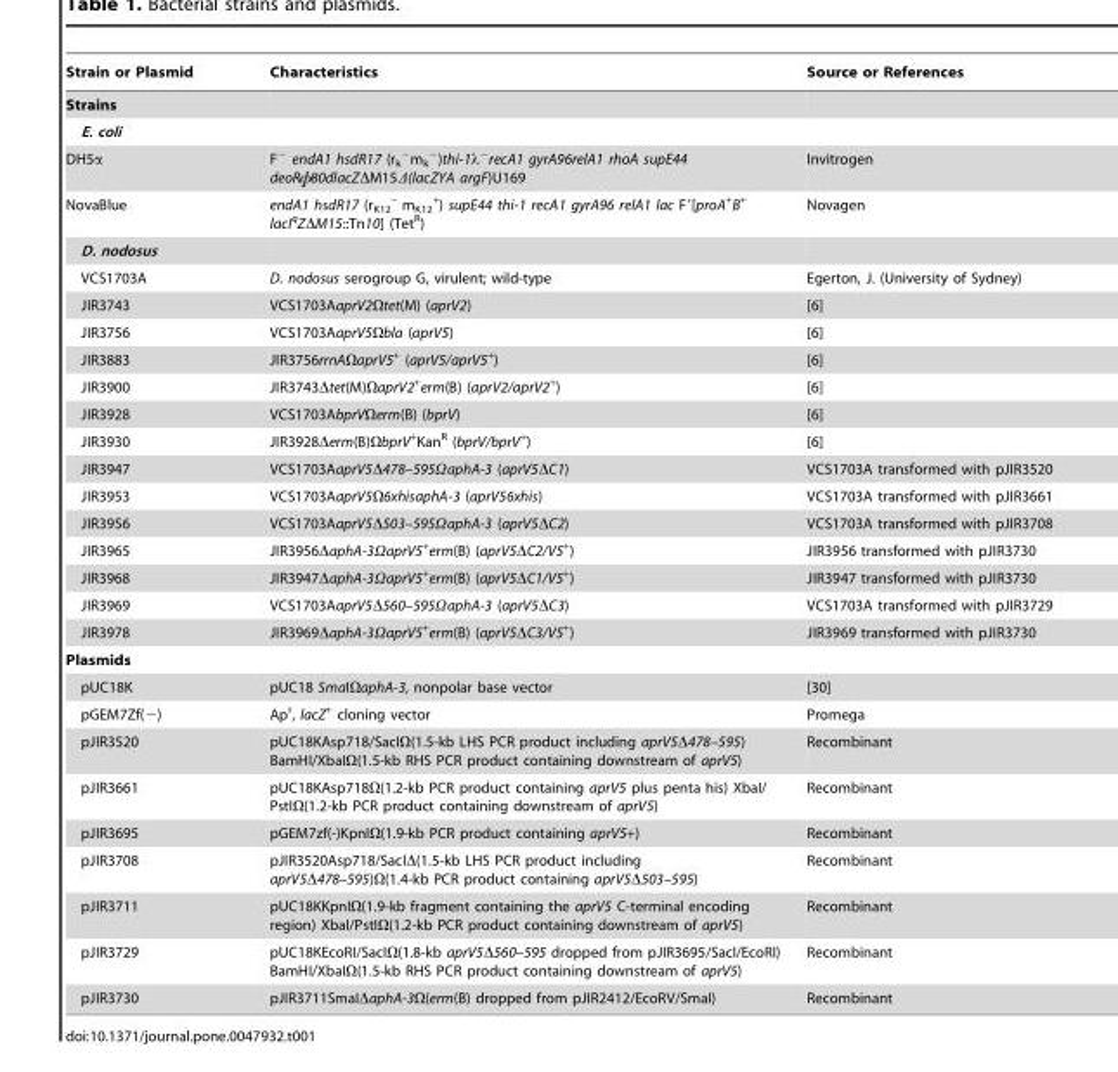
<table><thead><tr><td>Strain or Plasmid</td><td>Characteristics</td><td>Source or References</td></tr></thead><tbody><tr><td colspan="3">Strains</td></tr><tr><td colspan="3">E. coli</td></tr><tr><td>DH5α</td><td>F2 endA1 hsdR17 (rk 2mk 2)thi-1l2recA1 gyrA96relA1 rhoA supE44 deoR 80dlacZDM15D(lacZYA argF)U169</td><td>Invitrogen</td></tr><tr><td>NovaBlue</td><td>endA1 hsdR17 (r<sub>K12</sub> <sup>–</sup> m<sub>K12</sub> <sup>+</sup>) supE44 thi-1 recA1 gyrA96 relA1 lac F′[proA<sup>+</sup>B<sup>+</sup> lacI<sup>q</sup>ZΔM15::Tn10] (Tet<sup>R</sup>)</td><td>Novagen</td></tr><tr><td colspan="3">D. nodosus</td></tr><tr><td>VCS1703A</td><td>D. nodosus serogroup G, virulent; wild-type</td><td>Egerton, J. (University of Sydney)</td></tr><tr><td>JIR3743</td><td>VCS1703AaprV2Ωtet(M) (aprV2)</td><td>[6]</td></tr><tr><td>JIR3756</td><td>VCS1703AaprV5Ωbla (aprV5)</td><td>[6]</td></tr><tr><td>JIR3883</td><td>JIR3756rrnAΩaprV5<sup>+</sup> (aprV5/aprV5<sup>+</sup>)</td><td>[6]</td></tr><tr><td>JIR3900</td><td>JIR3743Δtet(M)ΩaprV2<sup>+</sup>erm(B) (aprV2/aprV2<sup>+</sup>)</td><td>[6]</td></tr><tr><td>JIR3928</td><td>VCS1703AbprVΩerm(B) (bprV)</td><td>[6]</td></tr><tr><td>JIR3930</td><td>JIR3928Δerm(B)ΩbprV<sup>+</sup>Kan<sup>R</sup> (bprV/bprV<sup>+</sup>)</td><td>[6]</td></tr><tr><td>JIR3947</td><td>VCS1703AaprV5Δ478–595ΩaphA-3 (aprV5ΔC1)</td><td>VCS1703A transformed with pJIR3520</td></tr><tr><td>JIR3953</td><td>VCS1703AaprV5Ω6xhisaphA-3 (aprV56xhis)</td><td>VCS1703A transformed with pJIR3661</td></tr><tr><td>JIR3956</td><td>VCS1703AaprV5Δ503–595ΩaphA-3 (aprV5ΔC2)</td><td>VCS1703A transformed with pJIR3708</td></tr><tr><td>JIR3965</td><td>JIR3956ΔaphA-3ΩaprV5<sup>+</sup>erm(B) (aprV5ΔC2/V5<sup>+</sup>)</td><td>JIR3956 transformed with pJIR3730</td></tr><tr><td>JIR3968</td><td>JIR3947ΔaphA-3ΩaprV5<sup>+</sup>erm(B) (aprV5ΔC1/V5<sup>+</sup>)</td><td>JIR3947 transformed with pJIR3730</td></tr><tr><td>JIR3969</td><td>VCS1703AaprV5Δ560–595ΩaphA-3 (aprV5ΔC3)</td><td>VCS1703A transformed with pJIR3729</td></tr><tr><td>JIR3978</td><td>JIR3969ΔaphA-3ΩaprV5<sup>+</sup>erm(B) (aprV5ΔC3/V5<sup>+</sup>)</td><td>JIR3969 transformed with pJIR3730</td></tr><tr><td colspan="3">Plasmids</td></tr><tr><td>pUC18K</td><td>pUC18 SmaIΩaphA-3, nonpolar base vector</td><td>[30]</td></tr><tr><td>pGEM7Zf(−)</td><td>Ap<sup>r</sup>, lacZ<sup>+</sup> cloning vector</td><td>Promega</td></tr><tr><td>pJIR3520</td><td>pUC18KAsp718/SacIΩ(1.5-kb LHS PCR product including aprV5Δ478–595) BamHI/XbaIΩ(1.5-kb RHS PCR product containing downstream of aprV5)</td><td>Recombinant</td></tr><tr><td>pJIR3661</td><td>pUC18KAsp718Ω(1.2-kb PCR product containing aprV5 plus penta his) XbaI/ PstIΩ(1.2-kb PCR product containing downstream of aprV5)</td><td>Recombinant</td></tr><tr><td>pJIR3695</td><td>pGEM7zf(-)KpnIΩ(1.9-kb PCR product containing aprV5+)</td><td>Recombinant</td></tr><tr><td>pJIR3708</td><td>pJIR3520Asp718/SacIΔ(1.5-kb LHS PCR product including aprV5Δ478–595)Ω(1.4-kb PCR product containing aprV5Δ503–595)</td><td>Recombinant</td></tr><tr><td>pJIR3711</td><td>pUC18KKpnIΩ(1.9-kb fragment containing the aprV5 C-terminal encoding region) XbaI/PstIΩ(1.2-kb PCR product containing downstream of aprV5)</td><td>Recombinant</td></tr><tr><td>pJIR3729</td><td>pUC18KEcoRI/SacIΩ(1.8-kb aprV5Δ560–595 dropped from pJIR3695/SacI/EcoRI) BamHI/XbaIΩ(1.5-kb RHS PCR product containing downstream of aprV5)</td><td>Recombinant</td></tr><tr><td>pJIR3730</td><td>pJIR3711SmaIΔaphA-3Ω(erm(B) dropped from pJIR2412/EcoRV/SmaI)</td><td>Recombinant</td></tr></tbody></table>